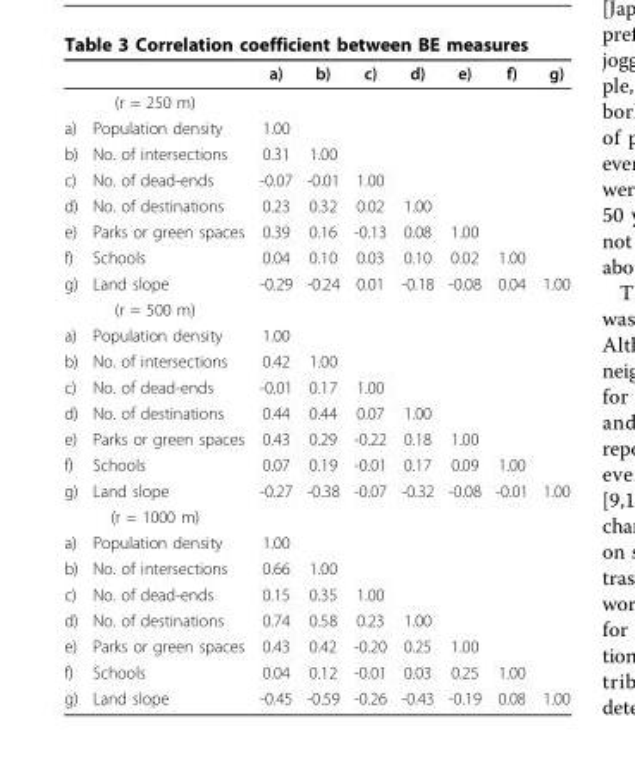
<table><thead><tr><td></td><td></td><td>a)</td><td>b)</td><td>c)</td><td>d)</td><td>e)</td><td>f)</td><td>g)</td></tr></thead><tbody><tr><td colspan="9">(r = 250 m)</td></tr><tr><td>a)</td><td>Population density</td><td>1.00</td><td></td><td></td><td></td><td></td><td></td><td></td></tr><tr><td>b)</td><td>No. of intersections</td><td>0.31</td><td>1.00</td><td></td><td></td><td></td><td></td><td></td></tr><tr><td>c)</td><td>No. of dead-ends</td><td>-0.07</td><td>-0.01</td><td>1.00</td><td></td><td></td><td></td><td></td></tr><tr><td>d)</td><td>No. of destinations</td><td>0.23</td><td>0.32</td><td>0.02</td><td>1.00</td><td></td><td></td><td></td></tr><tr><td>e)</td><td>Parks or green spaces</td><td>0.39</td><td>0.16</td><td>-0.13</td><td>0.08</td><td>1.00</td><td></td><td></td></tr><tr><td>f)</td><td>Schools</td><td>0.04</td><td>0.10</td><td>0.03</td><td>0.10</td><td>0.02</td><td>1.00</td><td></td></tr><tr><td>g)</td><td>Land slope</td><td>-0.29</td><td>-0.24</td><td>0.01</td><td>-0.18</td><td>-0.08</td><td>0.04</td><td>1.00</td></tr><tr><td colspan="9">(r = 500 m)</td></tr><tr><td>a)</td><td>Population density</td><td>1.00</td><td></td><td></td><td></td><td></td><td></td><td></td></tr><tr><td>b)</td><td>No. of intersections</td><td>0.42</td><td>1.00</td><td></td><td></td><td></td><td></td><td></td></tr><tr><td>c)</td><td>No. of dead-ends</td><td>-0.01</td><td>0.17</td><td>1.00</td><td></td><td></td><td></td><td></td></tr><tr><td>d)</td><td>No. of destinations</td><td>0.44</td><td>0.44</td><td>0.07</td><td>1.00</td><td></td><td></td><td></td></tr><tr><td>e)</td><td>Parks or green spaces</td><td>0.43</td><td>0.29</td><td>-0.22</td><td>0.18</td><td>1.00</td><td></td><td></td></tr><tr><td>f)</td><td>Schools</td><td>0.07</td><td>0.19</td><td>-0.01</td><td>0.17</td><td>0.09</td><td>1.00</td><td></td></tr><tr><td>g)</td><td>Land slope</td><td>-0.27</td><td>-0.38</td><td>-0.07</td><td>-0.32</td><td>-0.08</td><td>-0.01</td><td>1.00</td></tr><tr><td colspan="9">(r = 1000 m)</td></tr><tr><td>a)</td><td>Population density</td><td>1.00</td><td></td><td></td><td></td><td></td><td></td><td></td></tr><tr><td>b)</td><td>No. of intersections</td><td>0.66</td><td>1.00</td><td></td><td></td><td></td><td></td><td></td></tr><tr><td>c)</td><td>No. of dead-ends</td><td>0.15</td><td>0.35</td><td>1.00</td><td></td><td></td><td></td><td></td></tr><tr><td>d)</td><td>No. of destinations</td><td>0.74</td><td>0.58</td><td>0.23</td><td>1.00</td><td></td><td></td><td></td></tr><tr><td>e)</td><td>Parks or green spaces</td><td>0.43</td><td>0.42</td><td>-0.20</td><td>0.25</td><td>1.00</td><td></td><td></td></tr><tr><td>f)</td><td>Schools</td><td>0.04</td><td>0.12</td><td>-0.01</td><td>0.03</td><td>0.25</td><td>1.00</td><td></td></tr><tr><td>g)</td><td>Land slope</td><td>-0.45</td><td>-0.59</td><td>-0.26</td><td>-0.43</td><td>-0.19</td><td>0.08</td><td>1.00</td></tr></tbody></table>